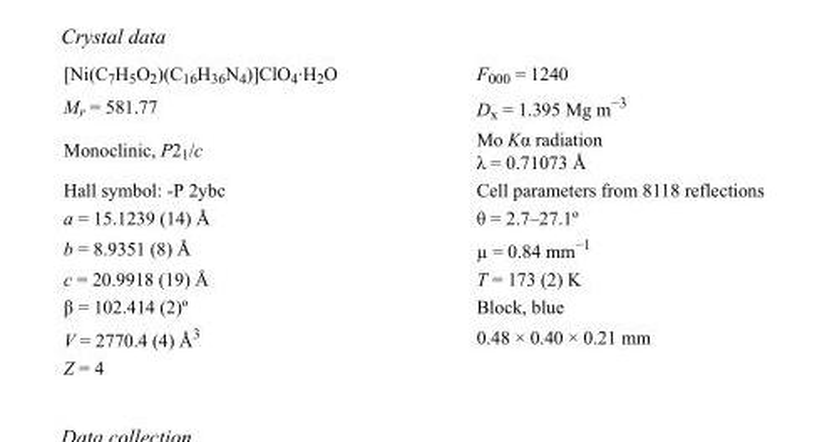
<table><tbody><tr><td>[Ni(C<sub>7</sub>H<sub>5</sub>O<sub>2</sub>)(C<sub>16</sub>H<sub>36</sub>N<sub>4</sub>)]ClO<sub>4</sub>·H<sub>2</sub>O</td><td>F<sub>000</sub> = 1240</td></tr><tr><td>M<sub>r</sub> = 581.77</td><td>D<sub>x</sub> = 1.395 Mg m<sup>−3</sup></td></tr><tr><td>Monoclinic, P2<sub>1</sub>/c</td><td>Mo Kα radiation λ = 0.71073 Å</td></tr><tr><td>Hall symbol: -P 2ybc</td><td>Cell parameters from 8118 reflections</td></tr><tr><td>a = 15.1239 (14) Å</td><td>θ = 2.7–27.1º</td></tr><tr><td>b = 8.9351 (8) Å</td><td>µ = 0.84 mm<sup>−1</sup></td></tr><tr><td>c = 20.9918 (19) Å</td><td>T = 173 (2) K</td></tr><tr><td>β = 102.414 (2)º</td><td>Block, blue</td></tr><tr><td>V = 2770.4 (4) Å<sup>3</sup></td><td>0.48 × 0.40 × 0.21 mm</td></tr><tr><td>Z = 4</td><td></td></tr></tbody></table>